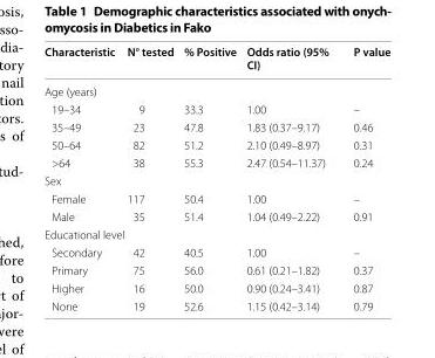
<table><thead><tr><td>Characteristic</td><td>N° tested</td><td>% Positive</td><td>Odds ratio (95% CI)</td><td>P value</td></tr></thead><tbody><tr><td colspan="5">Age (years)</td></tr><tr><td>19–34</td><td>9</td><td>33.3</td><td>1.00</td><td>–</td></tr><tr><td>35–49</td><td>23</td><td>47.8</td><td>1.83 (0.37–9.17)</td><td>0.46</td></tr><tr><td>50–64</td><td>82</td><td>51.2</td><td>2.10 (0.49–8.97)</td><td>0.31</td></tr><tr><td>&gt;64</td><td>38</td><td>55.3</td><td>2.47 (0.54–11.37)</td><td>0.24</td></tr><tr><td colspan="5">Sex</td></tr><tr><td>Female</td><td>117</td><td>50.4</td><td>1.00</td><td>–</td></tr><tr><td>Male</td><td>35</td><td>51.4</td><td>1.04 (0.49–2.22)</td><td>0.91</td></tr><tr><td colspan="5">Educational level</td></tr><tr><td>Secondary</td><td>42</td><td>40.5</td><td>1.00</td><td>–</td></tr><tr><td>Primary</td><td>75</td><td>56.0</td><td>0.61 (0.21–1.82)</td><td>0.37</td></tr><tr><td>Higher</td><td>16</td><td>50.0</td><td>0.90 (0.24–3.41)</td><td>0.87</td></tr><tr><td>None</td><td>19</td><td>52.6</td><td>1.15 (0.42–3.14)</td><td>0.79</td></tr></tbody></table>